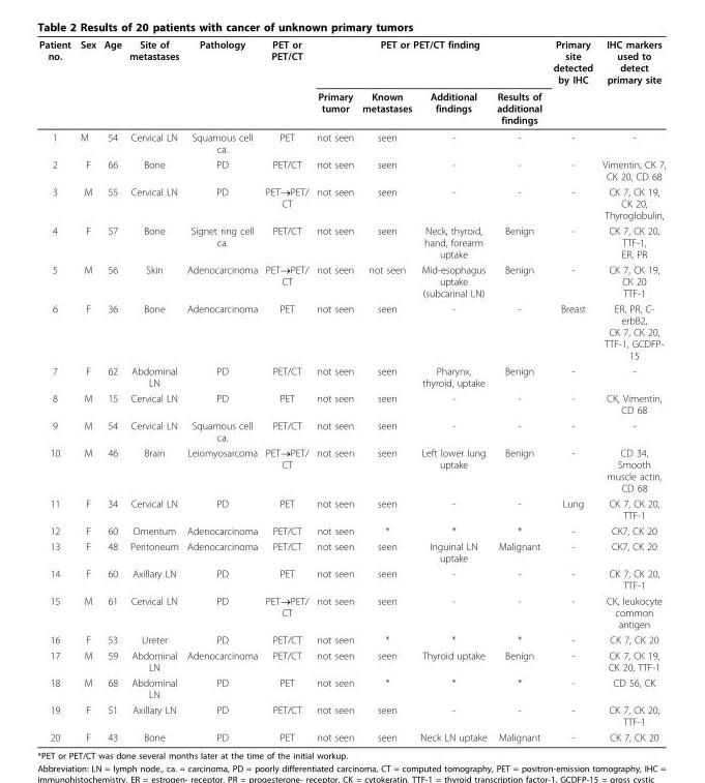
<table><thead><tr><td rowspan="2">Patient no.</td><td rowspan="2">Sex</td><td rowspan="2">Age</td><td rowspan="2">Site of metastases</td><td rowspan="2">Pathology</td><td rowspan="2">PET or PET/CT</td><td colspan="4">PET or PET/CT finding</td><td rowspan="2">Primary site detected by IHC</td><td rowspan="2">IHC markers used to detect primary site</td></tr><tr><td>Primary tumor</td><td>Known metastases</td><td>Additional findings</td><td>Results of additional findings</td></tr></thead><tbody><tr><td>1</td><td>M</td><td>54</td><td>Cervical LN</td><td>Squamous cell ca.</td><td>PET</td><td>not seen</td><td>seen</td><td>-</td><td>-</td><td>-</td><td>-</td></tr><tr><td>2</td><td>F</td><td>66</td><td>Bone</td><td>PD</td><td>PET/CT</td><td>not seen</td><td>seen</td><td>-</td><td>-</td><td>-</td><td>Vimentin, CK 7, CK 20, CD 68</td></tr><tr><td>3</td><td>M</td><td>55</td><td>Cervical LN</td><td>PD</td><td>PET→PET/ CT</td><td>not seen</td><td>seen</td><td>-</td><td>-</td><td>-</td><td>CK 7, CK 19, CK 20, Thyroglobulin,</td></tr><tr><td>4</td><td>F</td><td>57</td><td>Bone</td><td>Signet ring cell ca.</td><td>PET/CT</td><td>not seen</td><td>seen</td><td>Neck, thyroid, hand, forearm uptake</td><td>Benign</td><td>-</td><td>CK 7, CK 20, TTF-1, ER, PR</td></tr><tr><td>5</td><td>M</td><td>56</td><td>Skin</td><td>Adenocarcinoma</td><td>PET→PET/ CT</td><td>not seen</td><td>not seen</td><td>Mid-esophagus uptake (subcarinal LN)</td><td>Benign</td><td>-</td><td>CK 7, CK 19, CK 20 TTF-1</td></tr><tr><td>6</td><td>F</td><td>36</td><td>Bone</td><td>Adenocarcinoma</td><td>PET</td><td>not seen</td><td>seen</td><td>-</td><td>-</td><td>Breast</td><td>ER, PR, C- erbB2, CK 7, CK 20, TTF-1, GCDFP- 15</td></tr><tr><td>7</td><td>F</td><td>62</td><td>Abdominal LN</td><td>PD</td><td>PET/CT</td><td>not seen</td><td>seen</td><td>Pharynx, thyroid, uptake</td><td>Benign</td><td>-</td><td>-</td></tr><tr><td>8</td><td>M</td><td>15</td><td>Cervical LN</td><td>PD</td><td>PET</td><td>not seen</td><td>seen</td><td>-</td><td>-</td><td>-</td><td>CK, Vimentin, CD 68</td></tr><tr><td>9</td><td>M</td><td>54</td><td>Cervical LN</td><td>Squamous cell ca.</td><td>PET/CT</td><td>not seen</td><td>seen</td><td>-</td><td>-</td><td>-</td><td>-</td></tr><tr><td>10</td><td>M</td><td>46</td><td>Brain</td><td>Leiomyosarcoma</td><td>PET→PET/ CT</td><td>not seen</td><td>seen</td><td>Left lower lung uptake</td><td>Benign</td><td>-</td><td>CD 34, Smooth muscle actin, CD 68</td></tr><tr><td>11</td><td>F</td><td>34</td><td>Cervical LN</td><td>PD</td><td>PET</td><td>not seen</td><td>seen</td><td>-</td><td>-</td><td>Lung</td><td>CK 7, CK 20, TTF-1</td></tr><tr><td>12</td><td>F</td><td>60</td><td>Omentum</td><td>Adenocarcinoma</td><td>PET/CT</td><td>not seen</td><td>*</td><td>*</td><td>*</td><td>-</td><td>CK7, CK 20</td></tr><tr><td>13</td><td>F</td><td>48</td><td>Peritoneum</td><td>Adenocarcinoma</td><td>PET/CT</td><td>not seen</td><td>seen</td><td>Inguinal LN uptake</td><td>Malignant</td><td>-</td><td>CK7, CK 20</td></tr><tr><td>14</td><td>F</td><td>60</td><td>Axillary LN</td><td>PD</td><td>PET</td><td>not seen</td><td>seen</td><td>-</td><td>-</td><td>-</td><td>CK 7, CK 20, TTF-1</td></tr><tr><td>15</td><td>M</td><td>61</td><td>Cervical LN</td><td>PD</td><td>PET→PET/ CT</td><td>not seen</td><td>seen</td><td>-</td><td>-</td><td>-</td><td>CK, leukocyte common antigen</td></tr><tr><td>16</td><td>F</td><td>53</td><td>Ureter</td><td>PD</td><td>PET/CT</td><td>not seen</td><td>*</td><td>*</td><td>*</td><td>-</td><td>CK 7, CK 20</td></tr><tr><td>17</td><td>M</td><td>59</td><td>Abdominal LN</td><td>Adenocarcinoma</td><td>PET/CT</td><td>not seen</td><td>seen</td><td>Thyroid uptake</td><td>Benign</td><td>-</td><td>CK 7, CK 19, CK 20, TTF-1</td></tr><tr><td>18</td><td>M</td><td>68</td><td>Abdominal LN</td><td>PD</td><td>PET</td><td>not seen</td><td>*</td><td>*</td><td>*</td><td>-</td><td>CD 56, CK</td></tr><tr><td>19</td><td>F</td><td>51</td><td>Axillary LN</td><td>PD</td><td>PET/CT</td><td>not seen</td><td>seen</td><td>-</td><td>-</td><td>-</td><td>CK 7, CK 20, TTF-1</td></tr><tr><td>20</td><td>F</td><td>43</td><td>Bone</td><td>PD</td><td>PET</td><td>not seen</td><td>seen</td><td>Neck LN uptake</td><td>Malignant</td><td>-</td><td>CK 7, CK 20</td></tr></tbody></table>